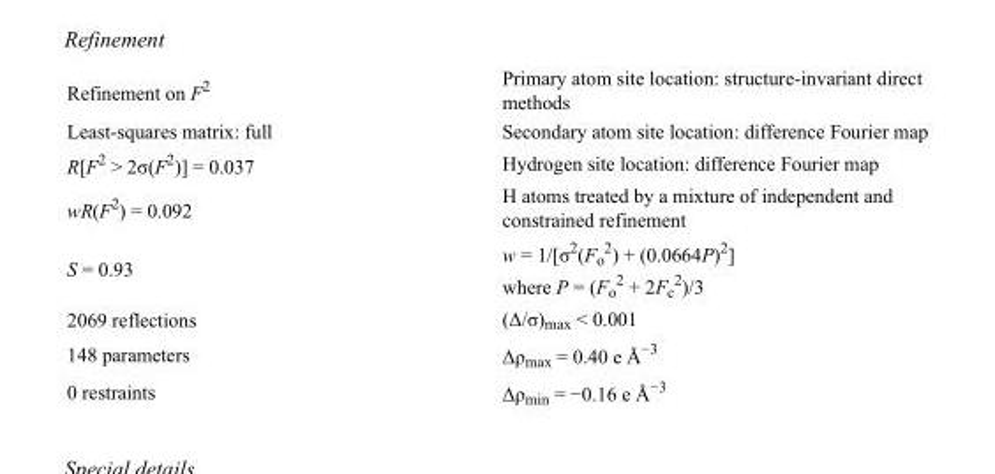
<table><tbody><tr><td>Refinement on F<sup>2</sup></td><td>Primary atom site location: structure-invariant direct methods</td></tr><tr><td>Least-squares matrix: full</td><td>Secondary atom site location: difference Fourier map</td></tr><tr><td>R[F<sup>2</sup> &gt; 2σ(F<sup>2</sup>)] = 0.037</td><td>Hydrogen site location: difference Fourier map</td></tr><tr><td>wR(F<sup>2</sup>) = 0.092</td><td>H atoms treated by a mixture of independent and constrained refinement</td></tr><tr><td>S = 0.93</td><td>w = 1/[σ<sup>2</sup>(F<sub>o</sub> <sup>2</sup>) + (0.0664P)<sup>2</sup>] where P = (F<sub>o</sub> <sup>2</sup> + 2F<sub>c</sub> <sup>2</sup>)/3</td></tr><tr><td>2069 reflections</td><td>(Δ/σ)<sub>max</sub> &lt; 0.001</td></tr><tr><td>148 parameters</td><td>Δρ<sub>max</sub> = 0.40 e Å<sup>−3</sup></td></tr><tr><td>0 restraints</td><td>Δρ<sub>min</sub> = −0.16 e Å<sup>−3</sup></td></tr></tbody></table>